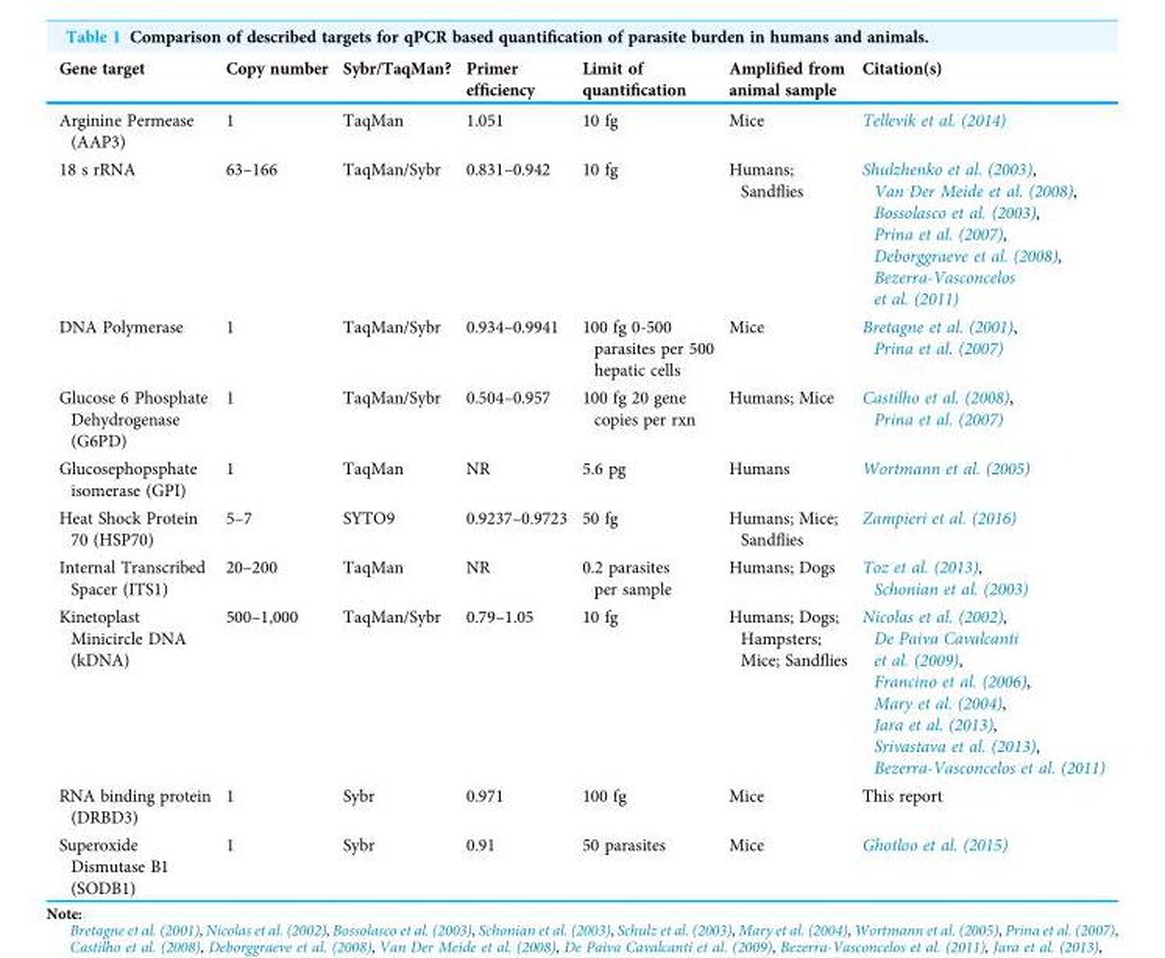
<table><thead><tr><td>Gene target</td><td>Copy number</td><td>Sybr/TaqMan?</td><td>Primer efficiency</td><td>Limit of quantification</td><td>Amplified from animal sample</td><td>Citation(s)</td></tr></thead><tbody><tr><td>Arginine Permease (AAP3)</td><td>1</td><td>TaqMan</td><td>1.051</td><td>10 fg</td><td>Mice</td><td>Tellevik et al. (2014)</td></tr><tr><td>18 s rRNA</td><td>63–166</td><td>TaqMan/Sybr</td><td>0.831–0.942</td><td>10 fg</td><td>Humans; Sandflies</td><td>Shulzhenko et al. (2003), Van Der Meide et al. (2008), Bossolasco et al. (2003), Prina et al. (2007), Deborggraeve et al. (2008), Bezerra-Vasconcelos et al. (2011)</td></tr><tr><td>DNA Polymerase</td><td>1</td><td>TaqMan/Sybr</td><td>0.934–0.9941</td><td>100 fg 0-500 parasites per 500 hepatic cells</td><td>Mice</td><td>Bretagne et al. (2001), Prina et al. (2007)</td></tr><tr><td>Glucose 6 Phosphate Dehydrogenase (G6PD)</td><td>1</td><td>TaqMan/Sybr</td><td>0.504–0.957</td><td>100 fg 20 gene copies per rxn</td><td>Humans; Mice</td><td>Castilho et al. (2008), Prina et al. (2007)</td></tr><tr><td>Glucosephopsphate isomerase (GPI)</td><td>1</td><td>TaqMan</td><td>NR</td><td>5.6 pg</td><td>Humans</td><td>Wortmann et al. (2005)</td></tr><tr><td>Heat Shock Protein 70 (HSP70)</td><td>5–7</td><td>SYTO9</td><td>0.9237–0.9723</td><td>50 fg</td><td>Humans; Mice; Sandflies</td><td>Zampieri et al. (2016)</td></tr><tr><td>Internal Transcribed Spacer (ITS1)</td><td>20–200</td><td>TaqMan</td><td>NR</td><td>0.2 parasites per sample</td><td>Humans; Dogs</td><td>Toz et al. (2013), Schonian et al. (2003)</td></tr><tr><td>Kinetoplast Minicircle DNA (kDNA)</td><td>500–1,000</td><td>TaqMan/Sybr</td><td>0.79–1.05</td><td>10 fg</td><td>Humans; Dogs; Hampsters; Mice; Sandflies</td><td>Nicolas et al. (2002), De Paiva Cavalcanti et al. (2009), Francino et al. (2006), Mary et al. (2004), Jara et al. (2013), Srivastava et al. (2013), Bezerra-Vasconcelos et al. (2011)</td></tr><tr><td>RNA binding protein (DRBD3)</td><td>1</td><td>Sybr</td><td>0.971</td><td>100 fg</td><td>Mice</td><td>This report</td></tr><tr><td>Superoxide Dismutase B1 (SODB1)</td><td>1</td><td>Sybr</td><td>0.91</td><td>50 parasites</td><td>Mice</td><td>Ghotloo et al. (2015)</td></tr></tbody></table>